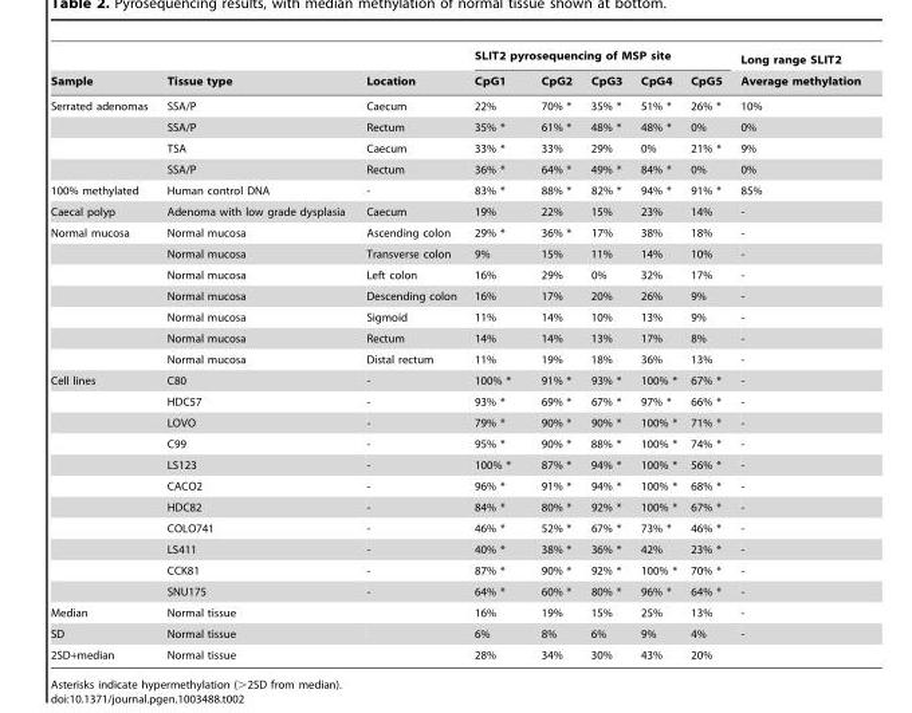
<table><thead><tr><td rowspan="2">Sample</td><td rowspan="2">Tissue type</td><td rowspan="2">Location</td><td colspan="5">SLIT2 pyrosequencing of MSP site</td><td rowspan="2">Long range SLIT2 Average methylation</td></tr><tr><td>CpG1</td><td>CpG2</td><td>CpG3</td><td>CpG4</td><td>CpG5</td></tr></thead><tbody><tr><td rowspan="4">Serrated adenomas</td><td>SSA/P</td><td>Caecum</td><td>22%</td><td>70% *</td><td>35% *</td><td>51% *</td><td>26% *</td><td>10%</td></tr><tr><td>SSA/P</td><td>Rectum</td><td>35% *</td><td>61% *</td><td>48% *</td><td>48% *</td><td>0%</td><td>0%</td></tr><tr><td>TSA</td><td>Caecum</td><td>33% *</td><td>33%</td><td>29%</td><td>0%</td><td>21% *</td><td>9%</td></tr><tr><td>SSA/P</td><td>Rectum</td><td>36% *</td><td>64% *</td><td>49% *</td><td>84% *</td><td>0%</td><td>0%</td></tr><tr><td>100% methylated</td><td>Human control DNA</td><td>-</td><td>83% *</td><td>88% *</td><td>82% *</td><td>94% *</td><td>91% *</td><td>85%</td></tr><tr><td>Caecal polyp</td><td>Adenoma with low grade dysplasia</td><td>Caecum</td><td>19%</td><td>22%</td><td>15%</td><td>23%</td><td>14%</td><td>-</td></tr><tr><td rowspan="7">Normal mucosa</td><td>Normal mucosa</td><td>Ascending colon</td><td>29% *</td><td>36% *</td><td>17%</td><td>38%</td><td>18%</td><td>-</td></tr><tr><td>Normal mucosa</td><td>Transverse colon</td><td>9%</td><td>15%</td><td>11%</td><td>14%</td><td>10%</td><td>-</td></tr><tr><td>Normal mucosa</td><td>Left colon</td><td>16%</td><td>29%</td><td>0%</td><td>32%</td><td>17%</td><td>-</td></tr><tr><td>Normal mucosa</td><td>Descending colon</td><td>16%</td><td>17%</td><td>20%</td><td>26%</td><td>9%</td><td>-</td></tr><tr><td>Normal mucosa</td><td>Sigmoid</td><td>11%</td><td>14%</td><td>10%</td><td>13%</td><td>9%</td><td>-</td></tr><tr><td>Normal mucosa</td><td>Rectum</td><td>14%</td><td>14%</td><td>13%</td><td>17%</td><td>8%</td><td>-</td></tr><tr><td>Normal mucosa</td><td>Distal rectum</td><td>11%</td><td>19%</td><td>18%</td><td>36%</td><td>13%</td><td>-</td></tr><tr><td rowspan="11">Cell lines</td><td>C80</td><td>-</td><td>100% *</td><td>91% *</td><td>93% *</td><td>100% *</td><td>67% *</td><td>-</td></tr><tr><td>HDC57</td><td>-</td><td>93% *</td><td>69% *</td><td>67% *</td><td>97% *</td><td>66% *</td><td>-</td></tr><tr><td>LOVO</td><td>-</td><td>79% *</td><td>90% *</td><td>90% *</td><td>100% *</td><td>71% *</td><td>-</td></tr><tr><td>C99</td><td>-</td><td>95% *</td><td>90% *</td><td>88% *</td><td>100% *</td><td>74% *</td><td>-</td></tr><tr><td>LS123</td><td>-</td><td>100% *</td><td>87% *</td><td>94% *</td><td>100% *</td><td>56% *</td><td>-</td></tr><tr><td>CACO2</td><td>-</td><td>96% *</td><td>91% *</td><td>94% *</td><td>100% *</td><td>68% *</td><td>-</td></tr><tr><td>HDC82</td><td>-</td><td>84% *</td><td>80% *</td><td>92% *</td><td>100% *</td><td>67% *</td><td>-</td></tr><tr><td>COLO741</td><td>-</td><td>46% *</td><td>52% *</td><td>67% *</td><td>73% *</td><td>46% *</td><td>-</td></tr><tr><td>LS411</td><td>-</td><td>40% *</td><td>38% *</td><td>36% *</td><td>42%</td><td>23% *</td><td>-</td></tr><tr><td>CCK81</td><td>-</td><td>87% *</td><td>90% *</td><td>92% *</td><td>100% *</td><td>70% *</td><td>-</td></tr><tr><td>SNU175</td><td>-</td><td>64% *</td><td>60% *</td><td>80% *</td><td>96% *</td><td>64% *</td><td>-</td></tr><tr><td>Median</td><td>Normal tissue</td><td></td><td>16%</td><td>19%</td><td>15%</td><td>25%</td><td>13%</td><td>-</td></tr><tr><td>SD</td><td>Normal tissue</td><td></td><td>6%</td><td>8%</td><td>6%</td><td>9%</td><td>4%</td><td>-</td></tr><tr><td>2SD+median</td><td>Normal tissue</td><td></td><td>28%</td><td>34%</td><td>30%</td><td>43%</td><td>20%</td><td></td></tr></tbody></table>